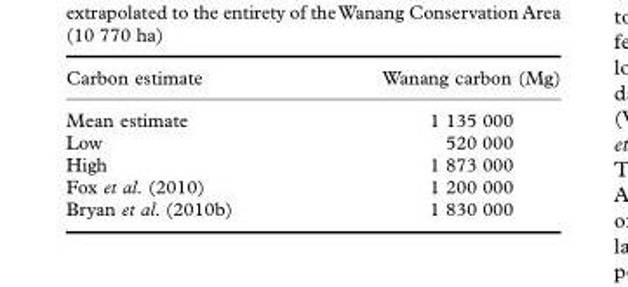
<table><thead><tr><td>Carbon estimate</td><td>Wanang carbon (Mg)</td></tr></thead><tbody><tr><td>Mean estimate</td><td>1 135 000</td></tr><tr><td>Low</td><td>520 000</td></tr><tr><td>High</td><td>1 873 000</td></tr><tr><td>Fox et al. (2010)</td><td>1 200 000</td></tr><tr><td>Bryan et al. (2010b)</td><td>1 830 000</td></tr></tbody></table>